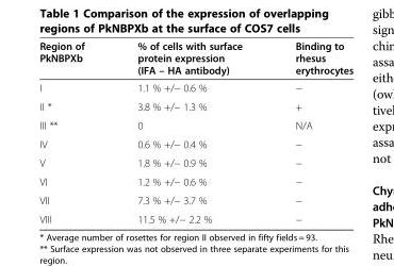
<table><thead><tr><td>Region of PkNBPXb</td><td>% of cells with surface protein expression (IFA – HA antibody)</td><td>Binding to rhesus erythrocytes</td></tr></thead><tbody><tr><td>I</td><td>1.1 % +/− 0.6 %</td><td>−</td></tr><tr><td>II *</td><td>3.8 % +/− 1.3 %</td><td>+</td></tr><tr><td>III **</td><td>0</td><td>N/A</td></tr><tr><td>IV</td><td>0.6 % +/− 0.4 %</td><td>−</td></tr><tr><td>V</td><td>1.8 % +/− 0.9 %</td><td>−</td></tr><tr><td>VI</td><td>1.2 % +/− 0.6 %</td><td>−</td></tr><tr><td>VII</td><td>7.3 % +/− 3.7 %</td><td>−</td></tr><tr><td>VIII</td><td>11.5 % +/− 2.2 %</td><td>−</td></tr></tbody></table>